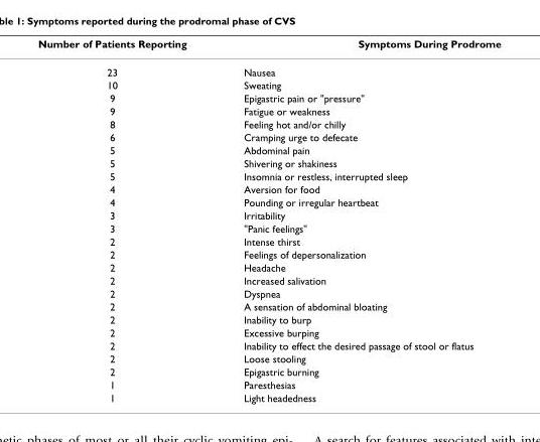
<table><thead><tr><td>Number of Patients Reporting</td><td>Symptoms During Prodrome</td></tr></thead><tbody><tr><td>23</td><td>Nausea</td></tr><tr><td>10</td><td>Sweating</td></tr><tr><td>9</td><td>Epigastric pain or &quot;pressure&quot;</td></tr><tr><td>9</td><td>Fatigue or weakness</td></tr><tr><td>8</td><td>Feeling hot and/or chilly</td></tr><tr><td>6</td><td>Cramping urge to defecate</td></tr><tr><td>5</td><td>Abdominal pain</td></tr><tr><td>5</td><td>Shivering or shakiness</td></tr><tr><td>5</td><td>Insomnia or restless, interrupted sleep</td></tr><tr><td>4</td><td>Aversion for food</td></tr><tr><td>4</td><td>Pounding or irregular heartbeat</td></tr><tr><td>3</td><td>Irritability</td></tr><tr><td>3</td><td>&quot;Panic feelings&quot;</td></tr><tr><td>2</td><td>Intense thirst</td></tr><tr><td>2</td><td>Feelings of depersonalization</td></tr><tr><td>2</td><td>Headache</td></tr><tr><td>2</td><td>Increased salivation</td></tr><tr><td>2</td><td>Dyspnea</td></tr><tr><td>2</td><td>A sensation of abdominal bloating</td></tr><tr><td>2</td><td>Inability to burp</td></tr><tr><td>2</td><td>Excessive burping</td></tr><tr><td>2</td><td>Inability to effect the desired passage of stool or flatus</td></tr><tr><td>2</td><td>Loose stooling</td></tr><tr><td>2</td><td>Epigastric burning</td></tr><tr><td>1</td><td>Paresthesias</td></tr><tr><td>1</td><td>Light headedness</td></tr></tbody></table>